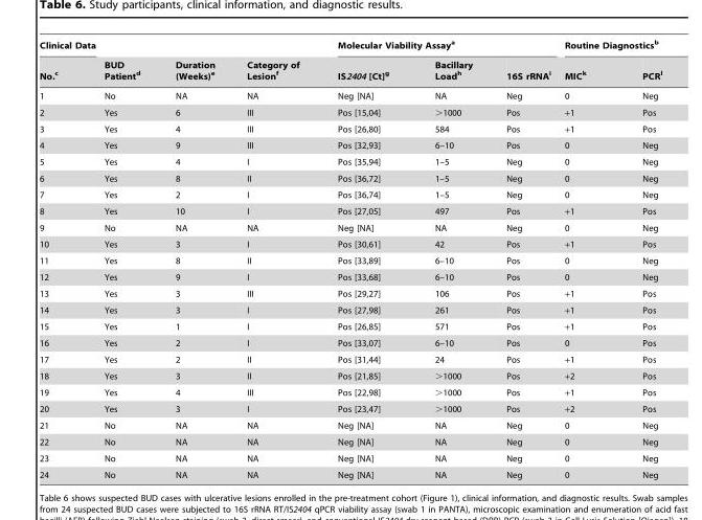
<table><thead><tr><td rowspan="2">Clinical Data No.<sup>c</sup></td><td rowspan="2">BUD Patient<sup>d</sup></td><td rowspan="2">Duration (Weeks)<sup>e</sup></td><td rowspan="2">Category of Lesion<sup>f</sup></td><td colspan="3">Molecular Viability Assay<sup>a</sup></td><td colspan="2">Routine Diagnostics<sup>b</sup></td></tr><tr><td>IS2404 [Ct]<sup>g</sup></td><td>Bacillary Load<sup>h</sup></td><td>16S rRNA<sup>i</sup></td><td>MIC<sup>k</sup></td><td>PCR<sup>l</sup></td></tr></thead><tbody><tr><td>1</td><td>No</td><td>NA</td><td>NA</td><td>Neg [NA]</td><td>NA</td><td>Neg</td><td>0</td><td>Neg</td></tr><tr><td>2</td><td>Yes</td><td>6</td><td>III</td><td>Pos [15,04]</td><td>&gt;1000</td><td>Pos</td><td>+1</td><td>Pos</td></tr><tr><td>3</td><td>Yes</td><td>4</td><td>III</td><td>Pos [26,80]</td><td>584</td><td>Pos</td><td>+1</td><td>Pos</td></tr><tr><td>4</td><td>Yes</td><td>9</td><td>III</td><td>Pos [32,93]</td><td>6–10</td><td>Pos</td><td>0</td><td>Neg</td></tr><tr><td>5</td><td>Yes</td><td>4</td><td>I</td><td>Pos [35,94]</td><td>1–5</td><td>Neg</td><td>0</td><td>Neg</td></tr><tr><td>6</td><td>Yes</td><td>8</td><td>II</td><td>Pos [36,72]</td><td>1–5</td><td>Neg</td><td>0</td><td>Neg</td></tr><tr><td>7</td><td>Yes</td><td>2</td><td>I</td><td>Pos [36,74]</td><td>1–5</td><td>Neg</td><td>0</td><td>Neg</td></tr><tr><td>8</td><td>Yes</td><td>10</td><td>I</td><td>Pos [27,05]</td><td>497</td><td>Pos</td><td>+1</td><td>Pos</td></tr><tr><td>9</td><td>No</td><td>NA</td><td>NA</td><td>Neg [NA]</td><td>NA</td><td>Neg</td><td>0</td><td>Neg</td></tr><tr><td>10</td><td>Yes</td><td>3</td><td>I</td><td>Pos [30,61]</td><td>42</td><td>Pos</td><td>+1</td><td>Pos</td></tr><tr><td>11</td><td>Yes</td><td>8</td><td>II</td><td>Pos [33,89]</td><td>6–10</td><td>Pos</td><td>0</td><td>Neg</td></tr><tr><td>12</td><td>Yes</td><td>9</td><td>I</td><td>Pos [33,68]</td><td>6–10</td><td>Pos</td><td>0</td><td>Neg</td></tr><tr><td>13</td><td>Yes</td><td>3</td><td>III</td><td>Pos [29,27]</td><td>106</td><td>Pos</td><td>+1</td><td>Pos</td></tr><tr><td>14</td><td>Yes</td><td>3</td><td>I</td><td>Pos [27,98]</td><td>261</td><td>Pos</td><td>+1</td><td>Pos</td></tr><tr><td>15</td><td>Yes</td><td>1</td><td>I</td><td>Pos [26,85]</td><td>571</td><td>Pos</td><td>+1</td><td>Pos</td></tr><tr><td>16</td><td>Yes</td><td>2</td><td>I</td><td>Pos [33,07]</td><td>6–10</td><td>Pos</td><td>0</td><td>Pos</td></tr><tr><td>17</td><td>Yes</td><td>2</td><td>II</td><td>Pos [31,44]</td><td>24</td><td>Pos</td><td>+1</td><td>Pos</td></tr><tr><td>18</td><td>Yes</td><td>3</td><td>II</td><td>Pos [21,85]</td><td>&gt;1000</td><td>Pos</td><td>+2</td><td>Pos</td></tr><tr><td>19</td><td>Yes</td><td>4</td><td>III</td><td>Pos [22,98]</td><td>&gt;1000</td><td>Pos</td><td>+1</td><td>Pos</td></tr><tr><td>20</td><td>Yes</td><td>3</td><td>I</td><td>Pos [23,47]</td><td>&gt;1000</td><td>Pos</td><td>+2</td><td>Pos</td></tr><tr><td>21</td><td>No</td><td>NA</td><td>NA</td><td>Neg [NA]</td><td>NA</td><td>Neg</td><td>0</td><td>Neg</td></tr><tr><td>22</td><td>No</td><td>NA</td><td>NA</td><td>Neg [NA]</td><td>NA</td><td>Neg</td><td>0</td><td>Neg</td></tr><tr><td>23</td><td>No</td><td>NA</td><td>NA</td><td>Neg [NA]</td><td>NA</td><td>Neg</td><td>0</td><td>Neg</td></tr><tr><td>24</td><td>No</td><td>NA</td><td>NA</td><td>Neg [NA]</td><td>NA</td><td>Neg</td><td>0</td><td>Neg</td></tr></tbody></table>